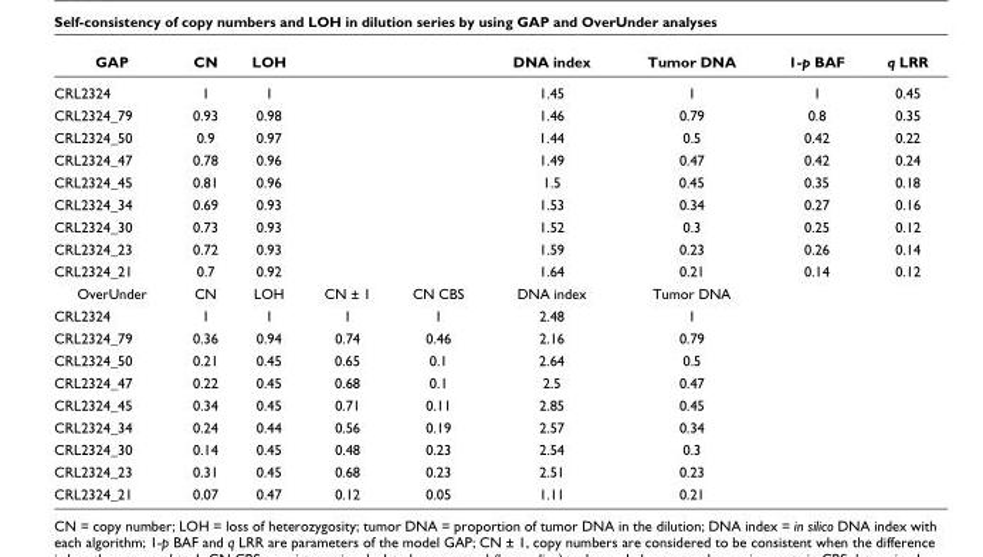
<table><thead><tr><td>GAP</td><td>CN</td><td>LOH</td><td></td><td></td><td>DNA index</td><td>Tumor DNA</td><td>1-p BAF</td><td>q LRR</td></tr></thead><tbody><tr><td>CRL2324</td><td>1</td><td>1</td><td></td><td></td><td>1.45</td><td>1</td><td>1</td><td>0.45</td></tr><tr><td>CRL2324_79</td><td>0.93</td><td>0.98</td><td></td><td></td><td>1.46</td><td>0.79</td><td>0.8</td><td>0.35</td></tr><tr><td>CRL2324_50</td><td>0.9</td><td>0.97</td><td></td><td></td><td>1.44</td><td>0.5</td><td>0.42</td><td>0.22</td></tr><tr><td>CRL2324_47</td><td>0.78</td><td>0.96</td><td></td><td></td><td>1.49</td><td>0.47</td><td>0.42</td><td>0.24</td></tr><tr><td>CRL2324_45</td><td>0.81</td><td>0.96</td><td></td><td></td><td>1.5</td><td>0.45</td><td>0.35</td><td>0.18</td></tr><tr><td>CRL2324_34</td><td>0.69</td><td>0.93</td><td></td><td></td><td>1.53</td><td>0.34</td><td>0.27</td><td>0.16</td></tr><tr><td>CRL2324_30</td><td>0.73</td><td>0.93</td><td></td><td></td><td>1.52</td><td>0.3</td><td>0.25</td><td>0.12</td></tr><tr><td>CRL2324_23</td><td>0.72</td><td>0.93</td><td></td><td></td><td>1.59</td><td>0.23</td><td>0.26</td><td>0.14</td></tr><tr><td>CRL2324_21</td><td>0.7</td><td>0.92</td><td></td><td></td><td>1.64</td><td>0.21</td><td>0.14</td><td>0.12</td></tr><tr><td>OverUnder</td><td>CN</td><td>LOH</td><td>CN ± 1</td><td>CN CBS</td><td>DNA index</td><td>Tumor DNA</td><td></td><td></td></tr><tr><td>CRL2324</td><td>1</td><td>1</td><td>1</td><td>1</td><td>2.48</td><td>1</td><td></td><td></td></tr><tr><td>CRL2324_79</td><td>0.36</td><td>0.94</td><td>0.74</td><td>0.46</td><td>2.16</td><td>0.79</td><td></td><td></td></tr><tr><td>CRL2324_50</td><td>0.21</td><td>0.45</td><td>0.65</td><td>0.1</td><td>2.64</td><td>0.5</td><td></td><td></td></tr><tr><td>CRL2324_47</td><td>0.22</td><td>0.45</td><td>0.68</td><td>0.1</td><td>2.5</td><td>0.47</td><td></td><td></td></tr><tr><td>CRL2324_45</td><td>0.34</td><td>0.45</td><td>0.71</td><td>0.11</td><td>2.85</td><td>0.45</td><td></td><td></td></tr><tr><td>CRL2324_34</td><td>0.24</td><td>0.44</td><td>0.56</td><td>0.19</td><td>2.57</td><td>0.34</td><td></td><td></td></tr><tr><td>CRL2324_30</td><td>0.14</td><td>0.45</td><td>0.48</td><td>0.23</td><td>2.54</td><td>0.3</td><td></td><td></td></tr><tr><td>CRL2324_23</td><td>0.31</td><td>0.45</td><td>0.68</td><td>0.23</td><td>2.51</td><td>0.23</td><td></td><td></td></tr><tr><td>CRL2324_21</td><td>0.07</td><td>0.47</td><td>0.12</td><td>0.05</td><td>1.11</td><td>0.21</td><td></td><td></td></tr></tbody></table>